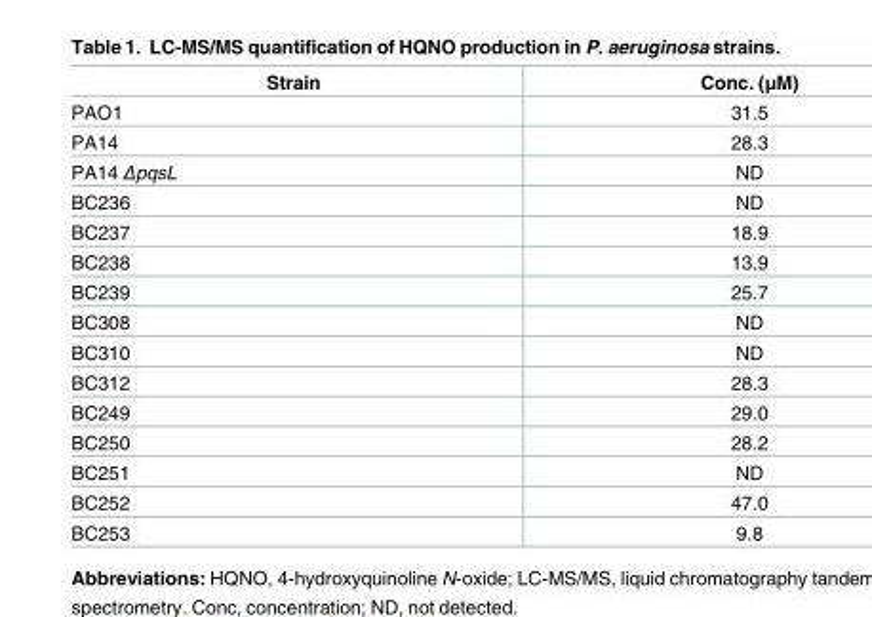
<table><thead><tr><td>Strain</td><td>Conc. (μM)</td></tr></thead><tbody><tr><td>PAO1</td><td>31.5</td></tr><tr><td>PA14</td><td>28.3</td></tr><tr><td>PA14 ΔpqsL</td><td>ND</td></tr><tr><td>BC236</td><td>ND</td></tr><tr><td>BC237</td><td>18.9</td></tr><tr><td>BC238</td><td>13.9</td></tr><tr><td>BC239</td><td>25.7</td></tr><tr><td>BC308</td><td>ND</td></tr><tr><td>BC310</td><td>ND</td></tr><tr><td>BC312</td><td>28.3</td></tr><tr><td>BC249</td><td>29.0</td></tr><tr><td>BC250</td><td>28.2</td></tr><tr><td>BC251</td><td>ND</td></tr><tr><td>BC252</td><td>47.0</td></tr><tr><td>BC253</td><td>9.8</td></tr></tbody></table>